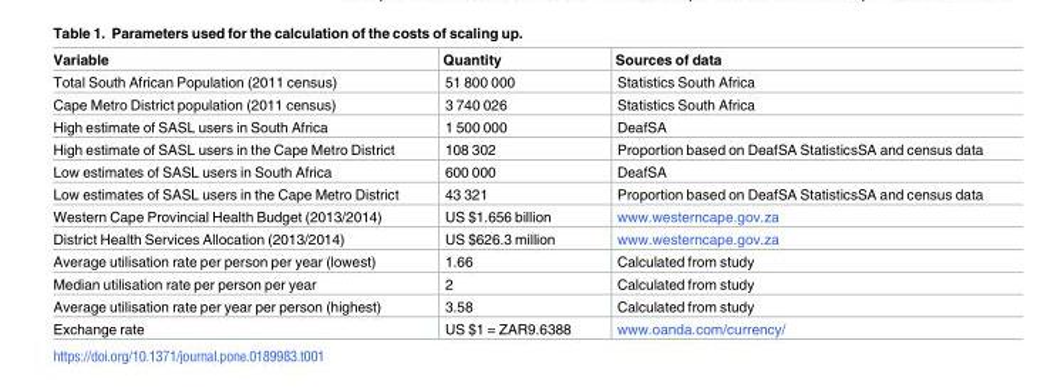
<table><thead><tr><td>Variable</td><td>Quantity</td><td>Sources of data</td></tr></thead><tbody><tr><td>Total South African Population (2011 census)</td><td>51 800 000</td><td>Statistics South Africa</td></tr><tr><td>Cape Metro District population (2011 census)</td><td>3 740 026</td><td>Statistics South Africa</td></tr><tr><td>High estimate of SASL users in South Africa</td><td>1 500 000</td><td>DeafSA</td></tr><tr><td>High estimate of SASL users in the Cape Metro District</td><td>108 302</td><td>Proportion based on DeafSA StatisticsSA and census data</td></tr><tr><td>Low estimates of SASL users in South Africa</td><td>600 000</td><td>DeafSA</td></tr><tr><td>Low estimates of SASL users in the Cape Metro District</td><td>43 321</td><td>Proportion based on DeafSA StatisticsSA and census data</td></tr><tr><td>Western Cape Provincial Health Budget (2013/2014)</td><td>US $1.656 billion</td><td>www.westerncape.gov.za</td></tr><tr><td>District Health Services Allocation (2013/2014)</td><td>US $626.3 million</td><td>www.westerncape.gov.za</td></tr><tr><td>Average utilisation rate per person per year (lowest)</td><td>1.66</td><td>Calculated from study</td></tr><tr><td>Median utilisation rate per person per year</td><td>2</td><td>Calculated from study</td></tr><tr><td>Average utilisation rate per year per person (highest)</td><td>3.58</td><td>Calculated from study</td></tr><tr><td>Exchange rate</td><td>US $1 = ZAR9.6388</td><td>www.oanda.com/currency/</td></tr></tbody></table>